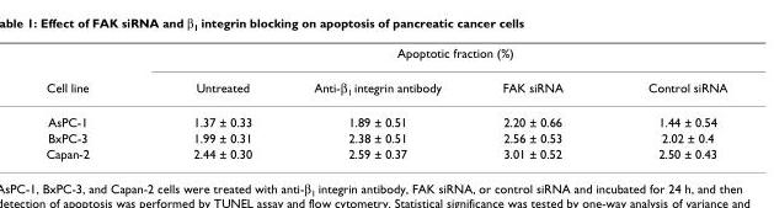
<table><thead><tr><td rowspan="2">Cell line</td><td colspan="4">Apoptotic fraction (%)</td></tr><tr><td>Untreated</td><td>Anti-β<sub>1</sub> integrin antibody</td><td>FAK siRNA</td><td>Control siRNA</td></tr></thead><tbody><tr><td>AsPC-1</td><td>1.37 ± 0.33</td><td>1.89 ± 0.51</td><td>2.20 ± 0.66</td><td>1.44 ± 0.54</td></tr><tr><td>BxPC-3</td><td>1.99 ± 0.31</td><td>2.38 ± 0.51</td><td>2.56 ± 0.53</td><td>2.02 ± 0.4</td></tr><tr><td>Capan-2</td><td>2.44 ± 0.30</td><td>2.59 ± 0.37</td><td>3.01 ± 0.52</td><td>2.50 ± 0.43</td></tr></tbody></table>